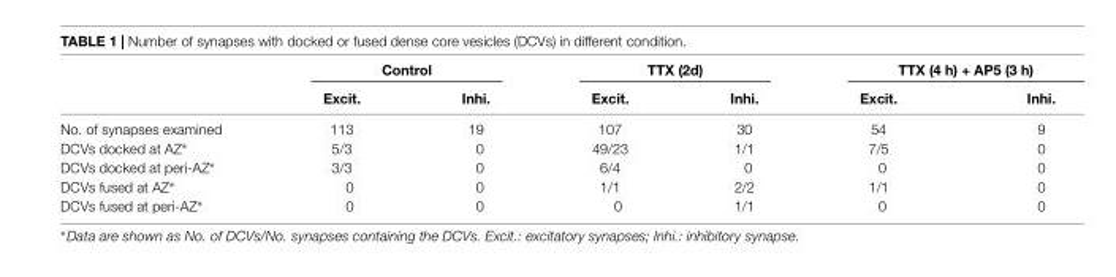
<table><thead><tr><td rowspan="2"></td><td colspan="2">Control</td><td colspan="2">TTX (2d)</td><td colspan="2">TTX (4 h) + AP5 (3 h)</td></tr><tr><td>Excit.</td><td>Inhi.</td><td>Excit.</td><td>Inhi.</td><td>Excit.</td><td>Inhi.</td></tr></thead><tbody><tr><td>No. of synapses examined</td><td>113</td><td>19</td><td>107</td><td>30</td><td>54</td><td>9</td></tr><tr><td>DCVs docked at AZ∗</td><td>5/3</td><td>0</td><td>49/23</td><td>1/1</td><td>7/5</td><td>0</td></tr><tr><td>DCVs docked at peri-AZ∗</td><td>3/3</td><td>0</td><td>6/4</td><td>0</td><td>0</td><td>0</td></tr><tr><td>DCVs fused at AZ∗</td><td>0</td><td>0</td><td>1/1</td><td>2/2</td><td>1/1</td><td>0</td></tr><tr><td>DCVs fused at peri-AZ∗</td><td>0</td><td>0</td><td>0</td><td>1/1</td><td>0</td><td>0</td></tr></tbody></table>